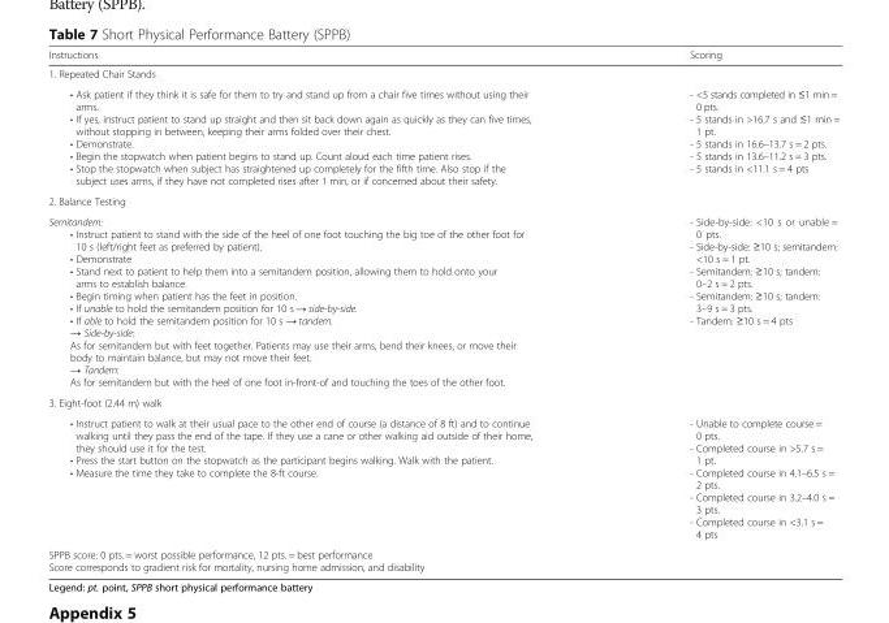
<table><thead><tr><td>Instructions</td><td>Scoring</td></tr></thead><tbody><tr><td colspan="2">1. Repeated Chair Stands</td></tr><tr><td>• Ask patient if they think it is safe for them to try and stand up from a chair five times without using their arms. • If yes, instruct patient to stand up straight and then sit back down again as quickly as they can five times, without stopping in between, keeping their arms folded over their chest. • Demonstrate. • Begin the stopwatch when patient begins to stand up. Count aloud each time patient rises. • Stop the stopwatch when subject has straightened up completely for the fifth time. Also stop if the subject uses arms, if they have not completed rises after 1 min, or if concerned about their safety.</td><td>- &lt;5 stands completed in ≤1 min = 0 pts. - 5 stands in &gt;16.7 s and ≤1 min = 1 pt. - 5 stands in 16.6–13.7 s = 2 pts. - 5 stands in 13.6–11.2 s = 3 pts. - 5 stands in &lt;11.1 s = 4 pts</td></tr><tr><td colspan="2">2. Balance Testing</td></tr><tr><td>Semitandem: • Instruct patient to stand with the side of the heel of one foot touching the big toe of the other foot for 10 s (left/right feet as preferred by patient). • Demonstrate • Stand next to patient to help them into a semitandem position, allowing them to hold onto your arms to establish balance. • Begin timing when patient has the feet in position. • If unable to hold the semitandem position for 10 s → side-by-side. • If able to hold the semitandem position for 10 s → tandem. → Side-by-side: As for semitandem but with feet together. Patients may use their arms, bend their knees, or move their body to maintain balance, but may not move their feet. → Tandem: As for semitandem but with the heel of one foot in-front-of and touching the toes of the other foot.</td><td>- Side-by-side: &lt;10 s or unable = 0 pts. - Side-by-side: ≥10 s; semitandem: &lt;10 s = 1 pt. - Semitandem: ≥10 s; tandem: 0–2 s = 2 pts. - Semitandem: ≥10 s; tandem: 3–9 s = 3 pts. - Tandem: ≥10 s = 4 pts</td></tr><tr><td colspan="2">3. Eight-foot (2.44 m) walk</td></tr><tr><td>• Instruct patient to walk at their usual pace to the other end of course (a distance of 8 ft) and to continue walking until they pass the end of the tape. If they use a cane or other walking aid outside of their home, they should use it for the test. • Press the start button on the stopwatch as the participant begins walking. Walk with the patient. • Measure the time they take to complete the 8-ft course.</td><td>- Unable to complete course = 0 pts. - Completed course in &gt;5.7 s = 1 pt. - Completed course in 4.1–6.5 s = 2 pts. - Completed course in 3.2–4.0 s = 3 pts. - Completed course in &lt;3.1 s = 4 pts</td></tr><tr><td colspan="2">SPPB score: 0 pts. = worst possible performance, 12 pts. = best performance Score corresponds to gradient risk for mortality, nursing home admission, and disability</td></tr></tbody></table>